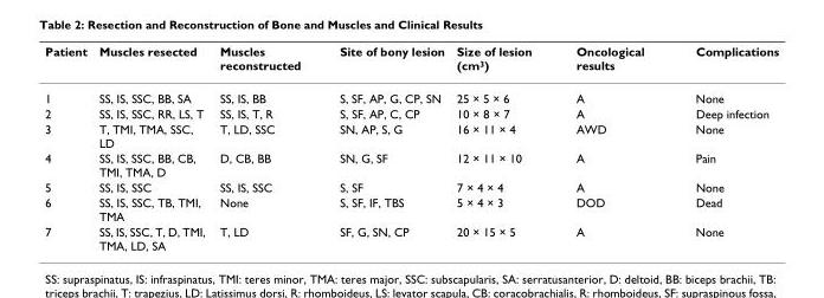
<table><thead><tr><td>Patient</td><td>Muscles resected</td><td>Muscles reconstructed</td><td>Site of bony lesion</td><td>Size of lesion (cm<sup>3</sup>)</td><td>Oncological results</td><td>Complications</td></tr></thead><tbody><tr><td>1</td><td>SS, IS, SSC, BB, SA</td><td>SS, IS, BB</td><td>S, SF, AP, G, CP, SN</td><td>25 × 5 × 6</td><td>A</td><td>None</td></tr><tr><td>2</td><td>SS, IS, SSC, RR, LS, T</td><td>SS, IS, T, R</td><td>S, SF, AP, C, CP</td><td>10 × 8 × 7</td><td>A</td><td>Deep infection</td></tr><tr><td>3</td><td>T, TMI, TMA, SSC, LD</td><td>T, LD, SSC</td><td>SN, AP, S, G</td><td>16 × 11 × 4</td><td>AWD</td><td>None</td></tr><tr><td>4</td><td>SS, IS, SSC, BB, CB, TMI, TMA, D</td><td>D, CB, BB</td><td>SN, G, SF</td><td>12 × 11 × 10</td><td>A</td><td>Pain</td></tr><tr><td>5</td><td>SS, IS, SSC</td><td>SS, IS, SSC</td><td>S, SF</td><td>7 × 4 × 4</td><td>A</td><td>None</td></tr><tr><td>6</td><td>SS, IS, SSC, TB, TMI, TMA</td><td>None</td><td>S, SF, IF, TBS</td><td>5 × 4 × 3</td><td>DOD</td><td>Dead</td></tr><tr><td>7</td><td>SS, IS, SSC, T, D, TMI, TMA, LD, SA</td><td>T, LD</td><td>SF, G, SN, CP</td><td>20 × 15 × 5</td><td>A</td><td>None</td></tr></tbody></table>